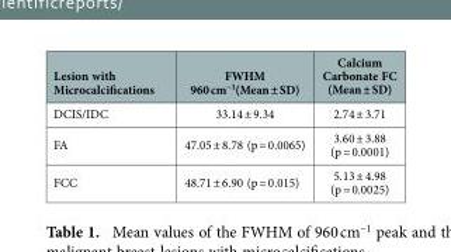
<table><thead><tr><td>Lesion with Microcalcifications</td><td>FWHM 960 cm<sup>−1</sup>(Mean ± SD)</td><td>Calcium Carbonate FC (Mean ± SD)</td></tr></thead><tbody><tr><td>DCIS/IDC</td><td>33.14 ± 9.34</td><td>2.74 ± 3.71</td></tr><tr><td>FA</td><td>47.05 ± 8.78 (p = 0.0065)</td><td>3.60 ± 3.88 (p = 0.0001)</td></tr><tr><td>FCC</td><td>48.71 ± 6.90 (p = 0.015)</td><td>5.13 ± 4.98 (p = 0.0025)</td></tr></tbody></table>